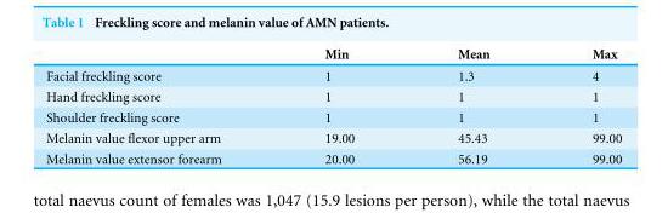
<table><thead><tr><td></td><td>Min</td><td>Mean</td><td>Max</td></tr></thead><tbody><tr><td>Facial freckling score</td><td>1</td><td>1.3</td><td>4</td></tr><tr><td>Hand freckling score</td><td>1</td><td>1</td><td>1</td></tr><tr><td>Shoulder freckling score</td><td>1</td><td>1</td><td>1</td></tr><tr><td>Melanin value flexor upper arm</td><td>19.00</td><td>45.43</td><td>99.00</td></tr><tr><td>Melanin value extensor forearm</td><td>20.00</td><td>56.19</td><td>99.00</td></tr></tbody></table>